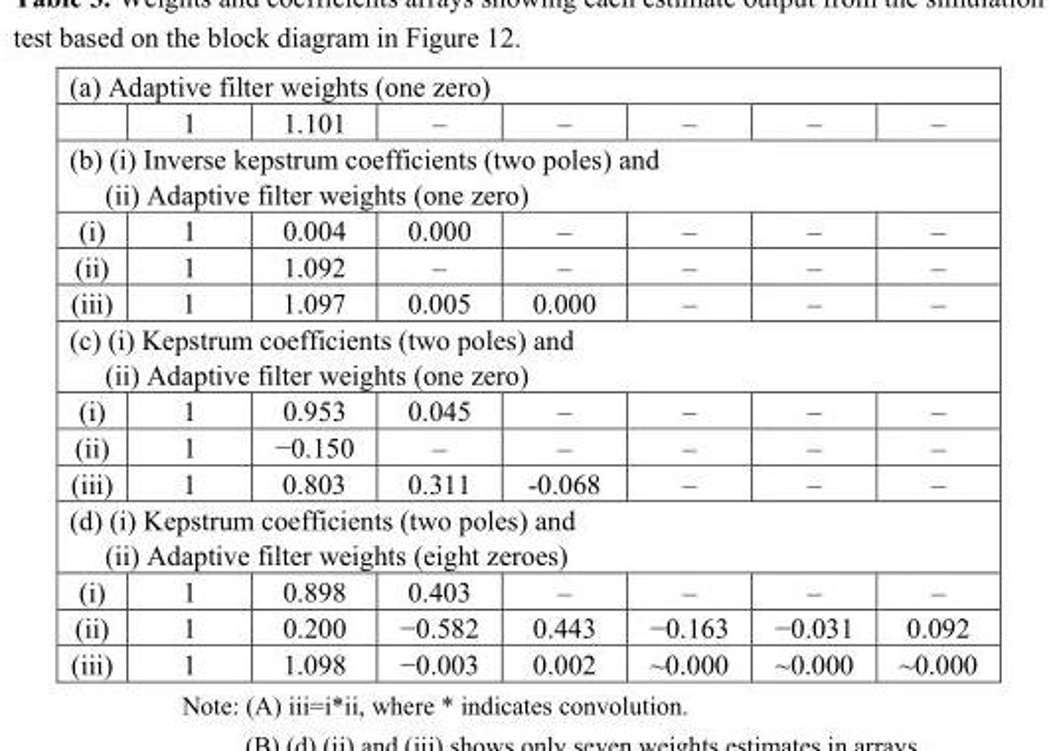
<table><tbody><tr><td colspan="8">(a) Adaptive filter weights (one zero)</td></tr><tr><td></td><td>1</td><td>1.101</td><td>–</td><td>–</td><td>–</td><td>–</td><td>–</td></tr><tr><td colspan="8">(b) (i) Inverse kepstrum coefficients (two poles) and (ii) Adaptive filter weights (one zero)</td></tr><tr><td>(i)</td><td>1</td><td>0.004</td><td>0.000</td><td>–</td><td>–</td><td>–</td><td>–</td></tr><tr><td>(ii)</td><td>1</td><td>1.092</td><td>–</td><td>–</td><td>–</td><td>–</td><td>–</td></tr><tr><td>(iii)</td><td>1</td><td>1.097</td><td>0.005</td><td>0.000</td><td>–</td><td>–</td><td>–</td></tr><tr><td colspan="8">(c) (i) Kepstrum coefficients (two poles) and (ii) Adaptive filter weights (one zero)</td></tr><tr><td>(i)</td><td>1</td><td>0.953</td><td>0.045</td><td>–</td><td>–</td><td>–</td><td>–</td></tr><tr><td>(ii)</td><td>1</td><td>−0.150</td><td>–</td><td>–</td><td>–</td><td>–</td><td>–</td></tr><tr><td>(iii)</td><td>1</td><td>0.803</td><td>0.311</td><td>-0.068</td><td>–</td><td>–</td><td>–</td></tr><tr><td colspan="8">(d) (i) Kepstrum coefficients (two poles) and (ii) Adaptive filter weights (eight zeroes)</td></tr><tr><td>(i)</td><td>1</td><td>0.898</td><td>0.403</td><td>–</td><td>–</td><td>–</td><td>–</td></tr><tr><td>(ii)</td><td>1</td><td>0.200</td><td>−0.582</td><td>0.443</td><td>−0.163</td><td>−0.031</td><td>0.092</td></tr><tr><td>(iii)</td><td>1</td><td>1.098</td><td>−0.003</td><td>0.002</td><td>~0.000</td><td>~0.000</td><td>~0.000</td></tr></tbody></table>